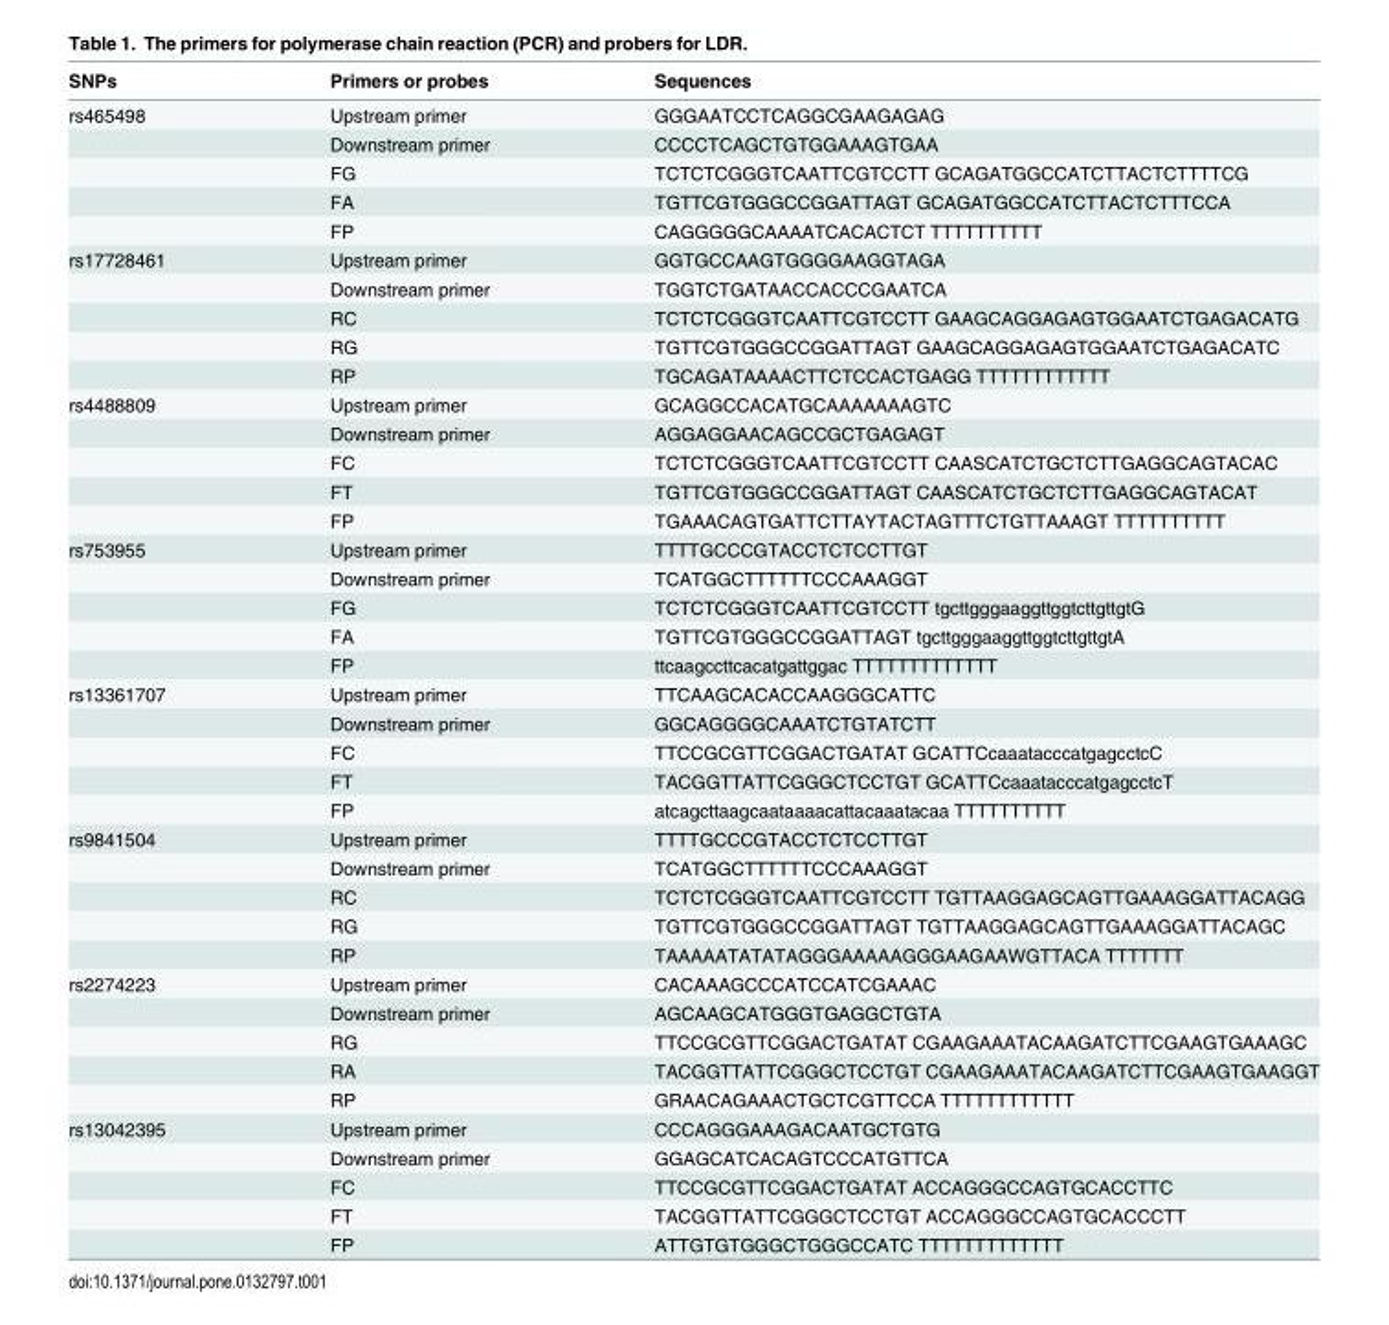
<table><thead><tr><td>SNPs</td><td>Primers or probes</td><td>Sequences</td></tr></thead><tbody><tr><td rowspan="5">rs465498</td><td>Upstream primer</td><td>GGGAATCCTCAGGCGAAGAGAG</td></tr><tr><td>Downstream primer</td><td>CCCCTCAGCTGTGGAAAGTGAA</td></tr><tr><td>FG</td><td>TCTCTCGGGTCAATTCGTCCTT GCAGATGGCCATCTTACTCTTTTCG</td></tr><tr><td>FA</td><td>TGTTCGTGGGCCGGATTAGT GCAGATGGCCATCTTACTCTTTCCA</td></tr><tr><td>FP</td><td>CAGGGGGCAAAATCACACTCT TTTTTTTTTT</td></tr><tr><td rowspan="5">rs17728461</td><td>Upstream primer</td><td>GGTGCCAAGTGGGGAAGGTAGA</td></tr><tr><td>Downstream primer</td><td>TGGTCTGATAACCACCCGAATCA</td></tr><tr><td>RC</td><td>TCTCTCGGGTCAATTCGTCCTT GAAGCAGGAGAGTGGAATCTGAGACATG</td></tr><tr><td>RG</td><td>TGTTCGTGGGCCGGATTAGT GAAGCAGGAGAGTGGAATCTGAGACATC</td></tr><tr><td>RP</td><td>TGCAGATAAAACTTCTCCACTGAGG TTTTTTTTTTTT</td></tr><tr><td rowspan="5">rs4488809</td><td>Upstream primer</td><td>GCAGGCCACATGCAAAAAAAGTC</td></tr><tr><td>Downstream primer</td><td>AGGAGGAACAGCCGCTGAGAGT</td></tr><tr><td>FC</td><td>TCTCTCGGGTCAATTCGTCCTT CAASCATCTGCTCTTGAGGCAGTACAC</td></tr><tr><td>FT</td><td>TGTTCGTGGGCCGGATTAGT CAASCATCTGCTCTTGAGGCAGTACAT</td></tr><tr><td>FP</td><td>TGAAACAGTGATTCTTAYTACTAGTTTCTGTTAAAGT TTTTTTTTTT</td></tr><tr><td rowspan="5">rs753955</td><td>Upstream primer</td><td>TTTTGCCCGTACCTCTCCTTGT</td></tr><tr><td>Downstream primer</td><td>TCATGGCTTTTTTCCCAAAGGT</td></tr><tr><td>FG</td><td>TCTCTCGGGTCAATTCGTCCTT tgcttgggaaggttggtcttgttgtG</td></tr><tr><td>FA</td><td>TGTTCGTGGGCCGGATTAGT tgcttgggaaggttggtcttgttgtA</td></tr><tr><td>FP</td><td>ttcaagccttcacatgattggac TTTTTTTTTTTTT</td></tr><tr><td rowspan="5">rs13361707</td><td>Upstream primer</td><td>TTCAAGCACACCAAGGGCATTC</td></tr><tr><td>Downstream primer</td><td>GGCAGGGGCAAATCTGTATCTT</td></tr><tr><td>FC</td><td>TTCCGCGTTCGGACTGATAT GCATTCcaaatacccatgagcctcC</td></tr><tr><td>FT</td><td>TACGGTTATTCGGGCTCCTGT GCATTCcaaatacccatgagcctcT</td></tr><tr><td>FP</td><td>atcagcttaagcaataaaacattacaaatacaa TTTTTTTTTT</td></tr><tr><td rowspan="5">rs9841504</td><td>Upstream primer</td><td>TTTTGCCCGTACCTCTCCTTGT</td></tr><tr><td>Downstream primer</td><td>TCATGGCTTTTTTCCCAAAGGT</td></tr><tr><td>RC</td><td>TCTCTCGGGTCAATTCGTCCTT TGTTAAGGAGCAGTTGAAAGGATTACAGG</td></tr><tr><td>RG</td><td>TGTTCGTGGGCCGGATTAGT TGTTAAGGAGCAGTTGAAAGGATTACAGC</td></tr><tr><td>RP</td><td>TAAAAATATATAGGGAAAAAGGGAAGAAWGTTACA TTTTTTT</td></tr><tr><td rowspan="5">rs2274223</td><td>Upstream primer</td><td>CACAAAGCCCATCCATCGAAAC</td></tr><tr><td>Downstream primer</td><td>AGCAAGCATGGGTGAGGCTGTA</td></tr><tr><td>RG</td><td>TTCCGCGTTCGGACTGATAT CGAAGAAATACAAGATCTTCGAAGTGAAAGC</td></tr><tr><td>RA</td><td>TACGGTTATTCGGGCTCCTGT CGAAGAAATACAAGATCTTCGAAGTGAAGGT</td></tr><tr><td>RP</td><td>GRAACAGAAACTGCTCGTTCCA TTTTTTTTTTTT</td></tr><tr><td rowspan="5">rs13042395</td><td>Upstream primer</td><td>CCCAGGGAAAGACAATGCTGTG</td></tr><tr><td>Downstream primer</td><td>GGAGCATCACAGTCCCATGTTCA</td></tr><tr><td>FC</td><td>TTCCGCGTTCGGACTGATAT ACCAGGGCCAGTGCACCTTC</td></tr><tr><td>FT</td><td>TACGGTTATTCGGGCTCCTGT ACCAGGGCCAGTGCACCCTT</td></tr><tr><td>FP</td><td>ATTGTGTGGGCTGGGCCATC TTTTTTTTTTTTT</td></tr></tbody></table>